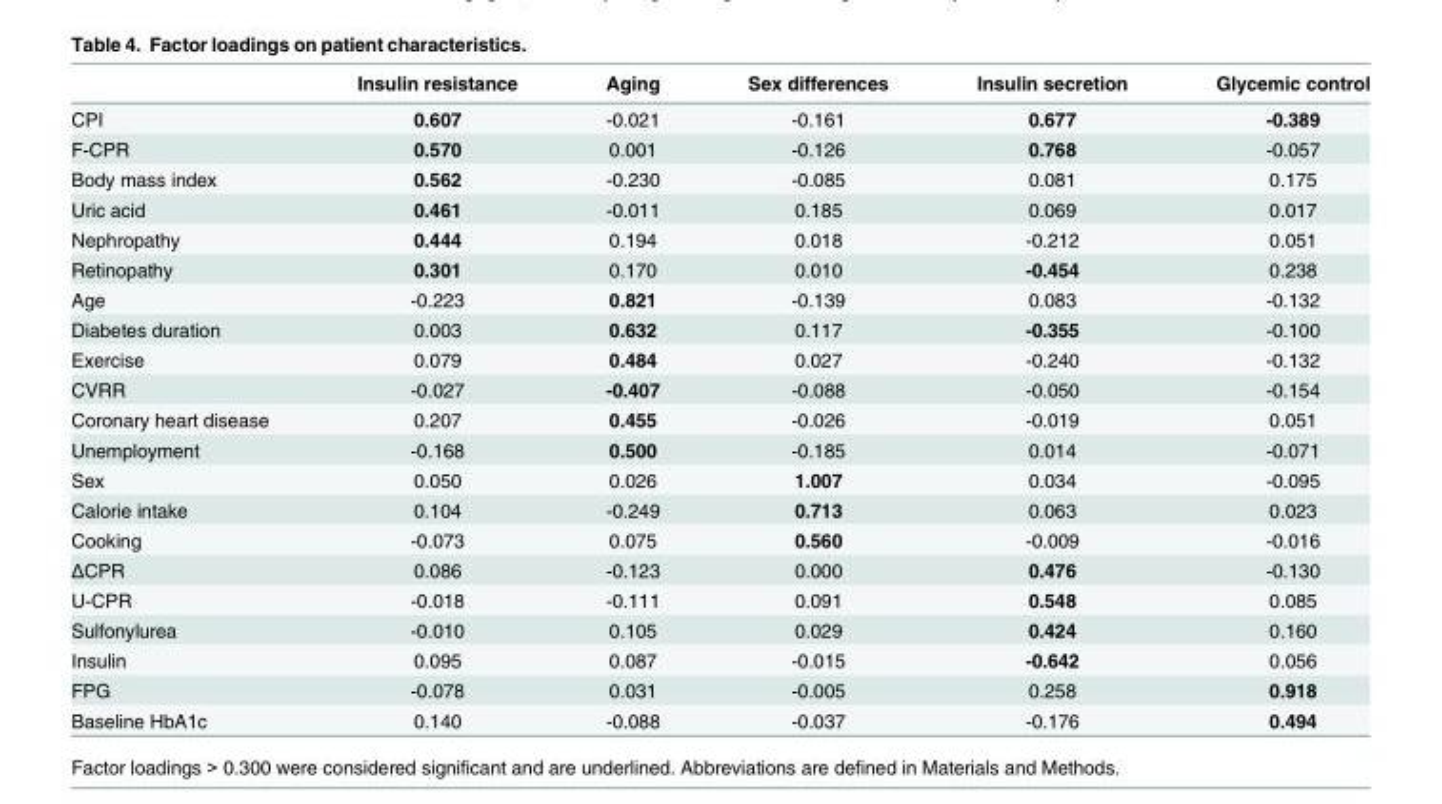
<table><thead><tr><td></td><td>Insulin resistance</td><td>Aging</td><td>Sex differences</td><td>Insulin secretion</td><td>Glycemic control</td></tr></thead><tbody><tr><td>CPI</td><td>0.607</td><td>-0.021</td><td>-0.161</td><td>0.677</td><td>-0.389</td></tr><tr><td>F-CPR</td><td>0.570</td><td>0.001</td><td>-0.126</td><td>0.768</td><td>-0.057</td></tr><tr><td>Body mass index</td><td>0.562</td><td>-0.230</td><td>-0.085</td><td>0.081</td><td>0.175</td></tr><tr><td>Uric acid</td><td>0.461</td><td>-0.011</td><td>0.185</td><td>0.069</td><td>0.017</td></tr><tr><td>Nephropathy</td><td>0.444</td><td>0.194</td><td>0.018</td><td>-0.212</td><td>0.051</td></tr><tr><td>Retinopathy</td><td>0.301</td><td>0.170</td><td>0.010</td><td>-0.454</td><td>0.238</td></tr><tr><td>Age</td><td>-0.223</td><td>0.821</td><td>-0.139</td><td>0.083</td><td>-0.132</td></tr><tr><td>Diabetes duration</td><td>0.003</td><td>0.632</td><td>0.117</td><td>-0.355</td><td>-0.100</td></tr><tr><td>Exercise</td><td>0.079</td><td>0.484</td><td>0.027</td><td>-0.240</td><td>-0.132</td></tr><tr><td>CVRR</td><td>-0.027</td><td>-0.407</td><td>-0.088</td><td>-0.050</td><td>-0.154</td></tr><tr><td>Coronary heart disease</td><td>0.207</td><td>0.455</td><td>-0.026</td><td>-0.019</td><td>0.051</td></tr><tr><td>Unemployment</td><td>-0.168</td><td>0.500</td><td>-0.185</td><td>0.014</td><td>-0.071</td></tr><tr><td>Sex</td><td>0.050</td><td>0.026</td><td>1.007</td><td>0.034</td><td>-0.095</td></tr><tr><td>Calorie intake</td><td>0.104</td><td>-0.249</td><td>0.713</td><td>0.063</td><td>0.023</td></tr><tr><td>Cooking</td><td>-0.073</td><td>0.075</td><td>0.560</td><td>-0.009</td><td>-0.016</td></tr><tr><td>ΔCPR</td><td>0.086</td><td>-0.123</td><td>0.000</td><td>0.476</td><td>-0.130</td></tr><tr><td>U-CPR</td><td>-0.018</td><td>-0.111</td><td>0.091</td><td>0.548</td><td>0.085</td></tr><tr><td>Sulfonylurea</td><td>-0.010</td><td>0.105</td><td>0.029</td><td>0.424</td><td>0.160</td></tr><tr><td>Insulin</td><td>0.095</td><td>0.087</td><td>-0.015</td><td>-0.642</td><td>0.056</td></tr><tr><td>FPG</td><td>-0.078</td><td>0.031</td><td>-0.005</td><td>0.258</td><td>0.918</td></tr><tr><td>Baseline HbA1c</td><td>0.140</td><td>-0.088</td><td>-0.037</td><td>-0.176</td><td>0.494</td></tr></tbody></table>